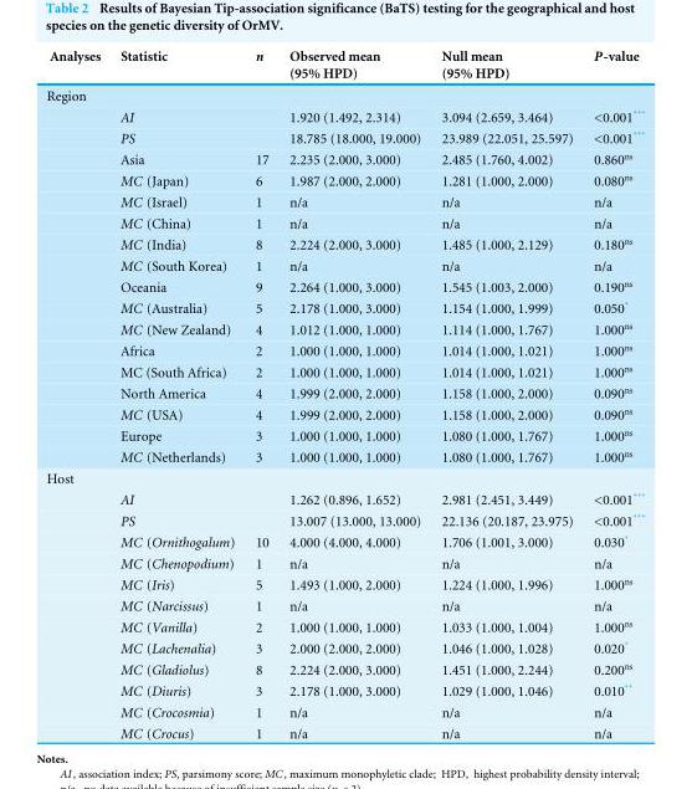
<table><thead><tr><td>Analyses</td><td>Statistic</td><td>n</td><td>Observed mean (95% HPD)</td><td>Null mean (95% HPD)</td><td>P-value</td></tr></thead><tbody><tr><td colspan="6">Region</td></tr><tr><td></td><td>AI</td><td></td><td>1.920 (1.492, 2.314)</td><td>3.094 (2.659, 3.464)</td><td>&lt;0.001***</td></tr><tr><td></td><td>PS</td><td></td><td>18.785 (18.000, 19.000)</td><td>23.989 (22.051, 25.597)</td><td>&lt;0.001***</td></tr><tr><td></td><td>Asia</td><td>17</td><td>2.235 (2.000, 3.000)</td><td>2.485 (1.760, 4.002)</td><td>0.860<sup>ns</sup></td></tr><tr><td></td><td>MC (Japan)</td><td>6</td><td>1.987 (2.000, 2.000)</td><td>1.281 (1.000, 2.000)</td><td>0.080<sup>ns</sup></td></tr><tr><td></td><td>MC (Israel)</td><td>1</td><td>n/a</td><td>n/a</td><td>n/a</td></tr><tr><td></td><td>MC (China)</td><td>1</td><td>n/a</td><td>n/a</td><td>n/a</td></tr><tr><td></td><td>MC (India)</td><td>8</td><td>2.224 (2.000, 3.000)</td><td>1.485 (1.000, 2.129)</td><td>0.180<sup>ns</sup></td></tr><tr><td></td><td>MC (South Korea)</td><td>1</td><td>n/a</td><td>n/a</td><td>n/a</td></tr><tr><td></td><td>Oceania</td><td>9</td><td>2.264 (1.000, 3.000)</td><td>1.545 (1.003, 2.000)</td><td>0.190<sup>ns</sup></td></tr><tr><td></td><td>MC (Australia)</td><td>5</td><td>2.178 (1.000, 3.000)</td><td>1.154 (1.000, 1.999)</td><td>0.050*</td></tr><tr><td></td><td>MC (New Zealand)</td><td>4</td><td>1.012 (1.000, 1.000)</td><td>1.114 (1.000, 1.767)</td><td>1.000<sup>ns</sup></td></tr><tr><td></td><td>Africa</td><td>2</td><td>1.000 (1.000, 1.000)</td><td>1.014 (1.000, 1.021)</td><td>1.000<sup>ns</sup></td></tr><tr><td></td><td>MC (South Africa)</td><td>2</td><td>1.000 (1.000, 1.000)</td><td>1.014 (1.000, 1.021)</td><td>1.000<sup>ns</sup></td></tr><tr><td></td><td>North America</td><td>4</td><td>1.999 (2.000, 2.000)</td><td>1.158 (1.000, 2.000)</td><td>0.090<sup>ns</sup></td></tr><tr><td></td><td>MC (USA)</td><td>4</td><td>1.999 (2.000, 2.000)</td><td>1.158 (1.000, 2.000)</td><td>0.090<sup>ns</sup></td></tr><tr><td></td><td>Europe</td><td>3</td><td>1.000 (1.000, 1.000)</td><td>1.080 (1.000, 1.767)</td><td>1.000<sup>ns</sup></td></tr><tr><td></td><td>MC (Netherlands)</td><td>3</td><td>1.000 (1.000, 1.000)</td><td>1.080 (1.000, 1.767)</td><td>1.000<sup>ns</sup></td></tr><tr><td colspan="6">Host</td></tr><tr><td></td><td>AI</td><td></td><td>1.262 (0.896, 1.652)</td><td>2.981 (2.451, 3.449)</td><td>&lt;0.001***</td></tr><tr><td></td><td>PS</td><td></td><td>13.007 (13.000, 13.000)</td><td>22.136 (20.187, 23.975)</td><td>&lt;0.001***</td></tr><tr><td></td><td>MC (Ornithogalum)</td><td>10</td><td>4.000 (4.000, 4.000)</td><td>1.706 (1.001, 3.000)</td><td>0.030*</td></tr><tr><td></td><td>MC (Chenopodium)</td><td>1</td><td>n/a</td><td>n/a</td><td>n/a</td></tr><tr><td></td><td>MC (Iris)</td><td>5</td><td>1.493 (1.000, 2.000)</td><td>1.224 (1.000, 1.996)</td><td>1.000<sup>ns</sup></td></tr><tr><td></td><td>MC (Narcissus)</td><td>1</td><td>n/a</td><td>n/a</td><td>n/a</td></tr><tr><td></td><td>MC (Vanilla)</td><td>2</td><td>1.000 (1.000, 1.000)</td><td>1.033 (1.000, 1.004)</td><td>1.000<sup>ns</sup></td></tr><tr><td></td><td>MC (Lachenalia)</td><td>3</td><td>2.000 (2.000, 2.000)</td><td>1.046 (1.000, 1.028)</td><td>0.020*</td></tr><tr><td></td><td>MC (Gladiolus)</td><td>8</td><td>2.224 (2.000, 3.000)</td><td>1.451 (1.000, 2.244)</td><td>0.200<sup>ns</sup></td></tr><tr><td></td><td>MC (Diuris)</td><td>3</td><td>2.178 (1.000, 3.000)</td><td>1.029 (1.000, 1.046)</td><td>0.010**</td></tr><tr><td></td><td>MC (Crocosmia)</td><td>1</td><td>n/a</td><td>n/a</td><td>n/a</td></tr><tr><td></td><td>MC (Crocus)</td><td>1</td><td>n/a</td><td>n/a</td><td>n/a</td></tr></tbody></table>